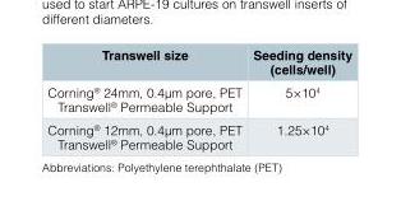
<table><thead><tr><td>Transwell size</td><td>Seeding density (cells/well)</td></tr></thead><tbody><tr><td>Corning<sup>®</sup> 24mm, 0.4μm pore, PET Transwell<sup>®</sup> Permeable Support</td><td>5×10<sup>4</sup></td></tr><tr><td>Corning<sup>®</sup> 12mm, 0.4μm pore, PET Transwell<sup>®</sup> Permeable Support</td><td>1.25×10<sup>4</sup></td></tr></tbody></table>